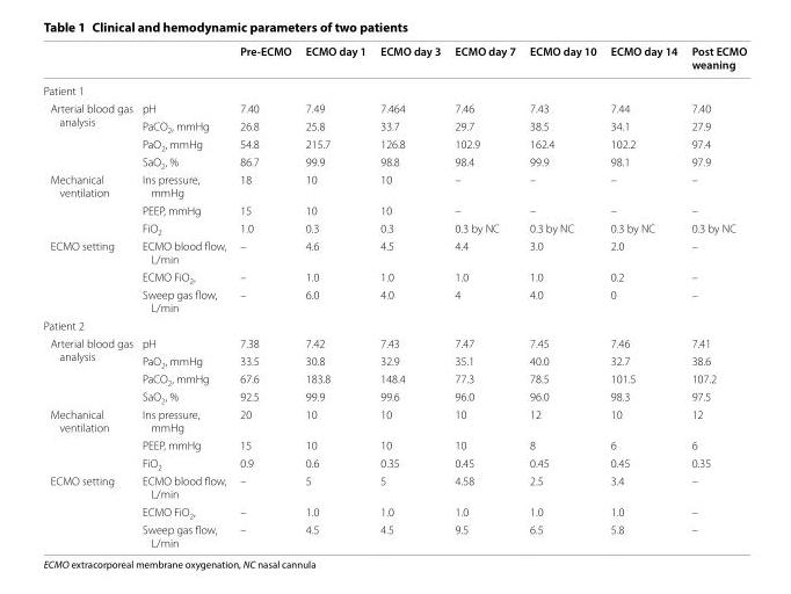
<table><thead><tr><td></td><td></td><td>Pre-ECMO</td><td>ECMO day 1</td><td>ECMO day 3</td><td>ECMO day 7</td><td>ECMO day 10</td><td>ECMO day 14</td><td>Post ECMO weaning</td></tr></thead><tbody><tr><td colspan="9">Patient 1</td></tr><tr><td rowspan="4">Arterial blood gas analysis</td><td>pH</td><td>7.40</td><td>7.49</td><td>7.464</td><td>7.46</td><td>7.43</td><td>7.44</td><td>7.40</td></tr><tr><td>PaCO<sub>2</sub>, mmHg</td><td>26.8</td><td>25.8</td><td>33.7</td><td>29.7</td><td>38.5</td><td>34.1</td><td>27.9</td></tr><tr><td>PaO<sub>2</sub>, mmHg</td><td>54.8</td><td>215.7</td><td>126.8</td><td>102.9</td><td>162.4</td><td>102.2</td><td>97.4</td></tr><tr><td>SaO<sub>2</sub>, %</td><td>86.7</td><td>99.9</td><td>98.8</td><td>98.4</td><td>99.9</td><td>98.1</td><td>97.9</td></tr><tr><td rowspan="3">Mechanical ventilation</td><td>Ins pressure, mmHg</td><td>18</td><td>10</td><td>10</td><td>–</td><td>–</td><td>–</td><td>–</td></tr><tr><td>PEEP, mmHg</td><td>15</td><td>10</td><td>10</td><td>–</td><td>–</td><td>–</td><td>–</td></tr><tr><td>FiO<sub>2</sub></td><td>1.0</td><td>0.3</td><td>0.3</td><td>0.3 by NC</td><td>0.3 by NC</td><td>0.3 by NC</td><td>0.3 by NC</td></tr><tr><td rowspan="3">ECMO setting</td><td>ECMO blood flow, L/min</td><td>–</td><td>4.6</td><td>4.5</td><td>4.4</td><td>3.0</td><td>2.0</td><td>–</td></tr><tr><td>ECMO FiO<sub>2</sub>,</td><td>–</td><td>1.0</td><td>1.0</td><td>1.0</td><td>1.0</td><td>0.2</td><td>–</td></tr><tr><td>Sweep gas flow, L/min</td><td>–</td><td>6.0</td><td>4.0</td><td>4</td><td>4.0</td><td>0</td><td>–</td></tr><tr><td colspan="9">Patient 2</td></tr><tr><td rowspan="4">Arterial blood gas analysis</td><td>pH</td><td>7.38</td><td>7.42</td><td>7.43</td><td>7.47</td><td>7.45</td><td>7.46</td><td>7.41</td></tr><tr><td>PaO<sub>2</sub>, mmHg</td><td>33.5</td><td>30.8</td><td>32.9</td><td>35.1</td><td>40.0</td><td>32.7</td><td>38.6</td></tr><tr><td>PaCO<sub>2</sub>, mmHg</td><td>67.6</td><td>183.8</td><td>148.4</td><td>77.3</td><td>78.5</td><td>101.5</td><td>107.2</td></tr><tr><td>SaO<sub>2</sub>, %</td><td>92.5</td><td>99.9</td><td>99.6</td><td>96.0</td><td>96.0</td><td>98.3</td><td>97.5</td></tr><tr><td rowspan="3">Mechanical ventilation</td><td>Ins pressure, mmHg</td><td>20</td><td>10</td><td>10</td><td>10</td><td>12</td><td>10</td><td>12</td></tr><tr><td>PEEP, mmHg</td><td>15</td><td>10</td><td>10</td><td>10</td><td>8</td><td>6</td><td>6</td></tr><tr><td>FiO<sub>2</sub></td><td>0.9</td><td>0.6</td><td>0.35</td><td>0.45</td><td>0.45</td><td>0.45</td><td>0.35</td></tr><tr><td rowspan="3">ECMO setting</td><td>ECMO blood flow, L/min</td><td>–</td><td>5</td><td>5</td><td>4.58</td><td>2.5</td><td>3.4</td><td>–</td></tr><tr><td>ECMO FiO<sub>2</sub>,</td><td>–</td><td>1.0</td><td>1.0</td><td>1.0</td><td>1.0</td><td>1.0</td><td>–</td></tr><tr><td>Sweep gas flow, L/min</td><td>–</td><td>4.5</td><td>4.5</td><td>9.5</td><td>6.5</td><td>5.8</td><td>–</td></tr></tbody></table>